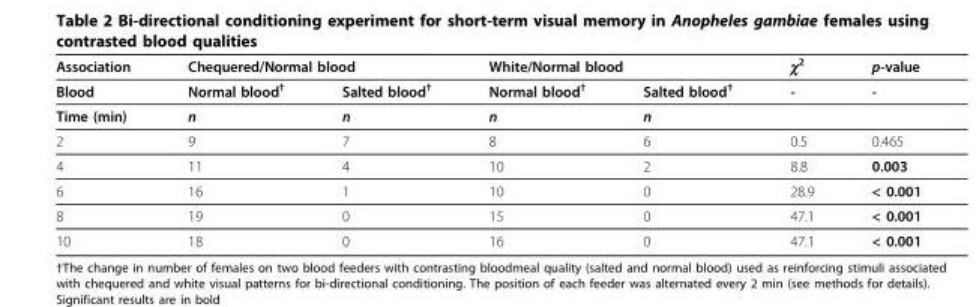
<table><thead><tr><td rowspan="2">Association Blood</td><td colspan="2">Chequered/Normal blood</td><td colspan="2">White/Normal blood</td><td rowspan="2">χ2 -</td><td rowspan="2">p-value -</td></tr><tr><td>Normal blood†</td><td>Salted blood†</td><td>Normal blood†</td><td>Salted blood†</td></tr></thead><tbody><tr><td>Time (min)</td><td>n</td><td>n</td><td>n</td><td>n</td><td></td><td></td></tr><tr><td>2</td><td>9</td><td>7</td><td>8</td><td>6</td><td>0.5</td><td>0.465</td></tr><tr><td>4</td><td>11</td><td>4</td><td>10</td><td>2</td><td>8.8</td><td>0.003</td></tr><tr><td>6</td><td>16</td><td>1</td><td>10</td><td>0</td><td>28.9</td><td>&lt; 0.001</td></tr><tr><td>8</td><td>19</td><td>0</td><td>15</td><td>0</td><td>47.1</td><td>&lt; 0.001</td></tr><tr><td>10</td><td>18</td><td>0</td><td>16</td><td>0</td><td>47.1</td><td>&lt; 0.001</td></tr></tbody></table>